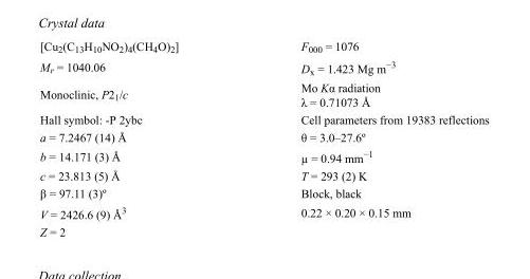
<table><tbody><tr><td>[Cu<sub>2</sub>(C<sub>13</sub>H<sub>10</sub>NO<sub>2</sub>)<sub>4</sub>(CH<sub>4</sub>O)<sub>2</sub>]</td><td>F<sub>000</sub> = 1076</td></tr><tr><td>M<sub>r</sub> = 1040.06</td><td>D<sub>x</sub> = 1.423 Mg m<sup>−3</sup></td></tr><tr><td>Monoclinic, P2<sub>1</sub>/c</td><td>Mo Kα radiation λ = 0.71073 Å</td></tr><tr><td>Hall symbol: -P 2ybc</td><td>Cell parameters from 19383 reflections</td></tr><tr><td>a = 7.2467 (14) Å</td><td>θ = 3.0–27.6º</td></tr><tr><td>b = 14.171 (3) Å</td><td>µ = 0.94 mm<sup>−1</sup></td></tr><tr><td>c = 23.813 (5) Å</td><td>T = 293 (2) K</td></tr><tr><td>β = 97.11 (3)º</td><td>Block, black</td></tr><tr><td>V = 2426.6 (9) Å<sup>3</sup></td><td>0.22 × 0.20 × 0.15 mm</td></tr><tr><td>Z = 2</td><td></td></tr></tbody></table>